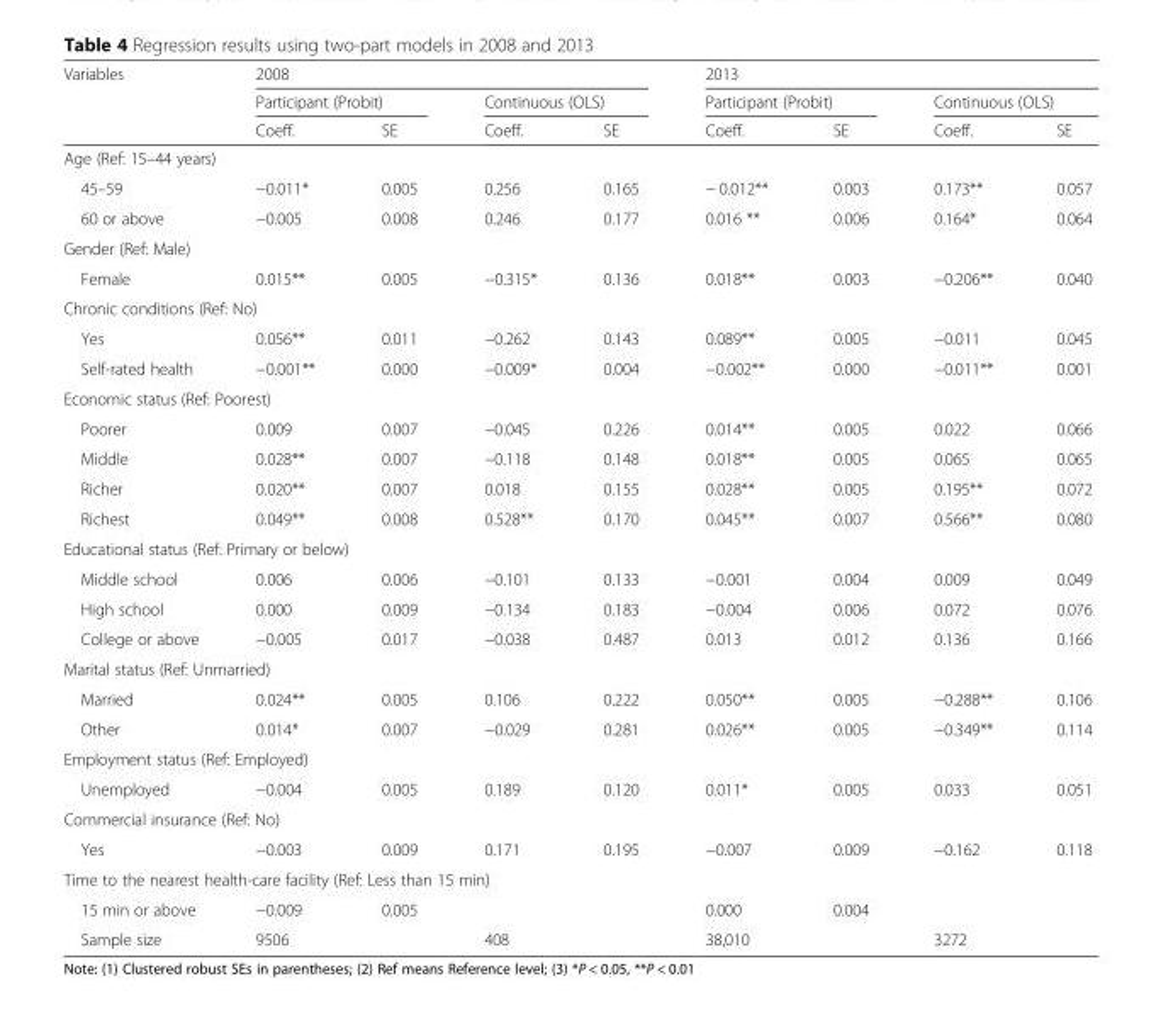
<table><thead><tr><td rowspan="3">Variables</td><td colspan="4">2008</td><td colspan="4">2013</td></tr><tr><td colspan="2">Participant (Probit)</td><td colspan="2">Continuous (OLS)</td><td colspan="2">Participant (Probit)</td><td colspan="2">Continuous (OLS)</td></tr><tr><td>Coeff.</td><td>SE</td><td>Coeff.</td><td>SE</td><td>Coeff.</td><td>SE</td><td>Coeff.</td><td>SE</td></tr></thead><tbody><tr><td colspan="9">Age (Ref: 15–44 years)</td></tr><tr><td>45–59</td><td>−0.011*</td><td>0.005</td><td>0.256</td><td>0.165</td><td>− 0.012**</td><td>0.003</td><td>0.173**</td><td>0.057</td></tr><tr><td>60 or above</td><td>−0.005</td><td>0.008</td><td>0.246</td><td>0.177</td><td>0.016 **</td><td>0.006</td><td>0.164*</td><td>0.064</td></tr><tr><td colspan="9">Gender (Ref: Male)</td></tr><tr><td>Female</td><td>0.015**</td><td>0.005</td><td>−0.315*</td><td>0.136</td><td>0.018**</td><td>0.003</td><td>−0.206**</td><td>0.040</td></tr><tr><td colspan="9">Chronic conditions (Ref: No)</td></tr><tr><td>Yes</td><td>0.056**</td><td>0.011</td><td>−0.262</td><td>0.143</td><td>0.089**</td><td>0.005</td><td>−0.011</td><td>0.045</td></tr><tr><td>Self-rated health</td><td>−0.001**</td><td>0.000</td><td>−0.009*</td><td>0.004</td><td>−0.002**</td><td>0.000</td><td>−0.011**</td><td>0.001</td></tr><tr><td colspan="9">Economic status (Ref: Poorest)</td></tr><tr><td>Poorer</td><td>0.009</td><td>0.007</td><td>−0.045</td><td>0.226</td><td>0.014**</td><td>0.005</td><td>0.022</td><td>0.066</td></tr><tr><td>Middle</td><td>0.028**</td><td>0.007</td><td>−0.118</td><td>0.148</td><td>0.018**</td><td>0.005</td><td>0.065</td><td>0.065</td></tr><tr><td>Richer</td><td>0.020**</td><td>0.007</td><td>0.018</td><td>0.155</td><td>0.028**</td><td>0.005</td><td>0.195**</td><td>0.072</td></tr><tr><td>Richest</td><td>0.049**</td><td>0.008</td><td>0.528**</td><td>0.170</td><td>0.045**</td><td>0.007</td><td>0.566**</td><td>0.080</td></tr><tr><td colspan="9">Educational status (Ref: Primary or below)</td></tr><tr><td>Middle school</td><td>0.006</td><td>0.006</td><td>−0.101</td><td>0.133</td><td>−0.001</td><td>0.004</td><td>0.009</td><td>0.049</td></tr><tr><td>High school</td><td>0.000</td><td>0.009</td><td>−0.134</td><td>0.183</td><td>−0.004</td><td>0.006</td><td>0.072</td><td>0.076</td></tr><tr><td>College or above</td><td>−0.005</td><td>0.017</td><td>−0.038</td><td>0.487</td><td>0.013</td><td>0.012</td><td>0.136</td><td>0.166</td></tr><tr><td colspan="9">Marital status (Ref: Unmarried)</td></tr><tr><td>Married</td><td>0.024**</td><td>0.005</td><td>0.106</td><td>0.222</td><td>0.050**</td><td>0.005</td><td>−0.288**</td><td>0.106</td></tr><tr><td>Other</td><td>0.014*</td><td>0.007</td><td>−0.029</td><td>0.281</td><td>0.026**</td><td>0.005</td><td>−0.349**</td><td>0.114</td></tr><tr><td colspan="9">Employment status (Ref: Employed)</td></tr><tr><td>Unemployed</td><td>−0.004</td><td>0.005</td><td>0.189</td><td>0.120</td><td>0.011*</td><td>0.005</td><td>0.033</td><td>0.051</td></tr><tr><td colspan="9">Commercial insurance (Ref: No)</td></tr><tr><td>Yes</td><td>−0.003</td><td>0.009</td><td>0.171</td><td>0.195</td><td>−0.007</td><td>0.009</td><td>−0.162</td><td>0.118</td></tr><tr><td colspan="9">Time to the nearest health-care facility (Ref: Less than 15 min)</td></tr><tr><td>15 min or above</td><td>−0.009</td><td>0.005</td><td></td><td></td><td>0.000</td><td>0.004</td><td></td><td></td></tr><tr><td>Sample size</td><td>9506</td><td></td><td>408</td><td></td><td>38,010</td><td></td><td>3272</td><td></td></tr></tbody></table>